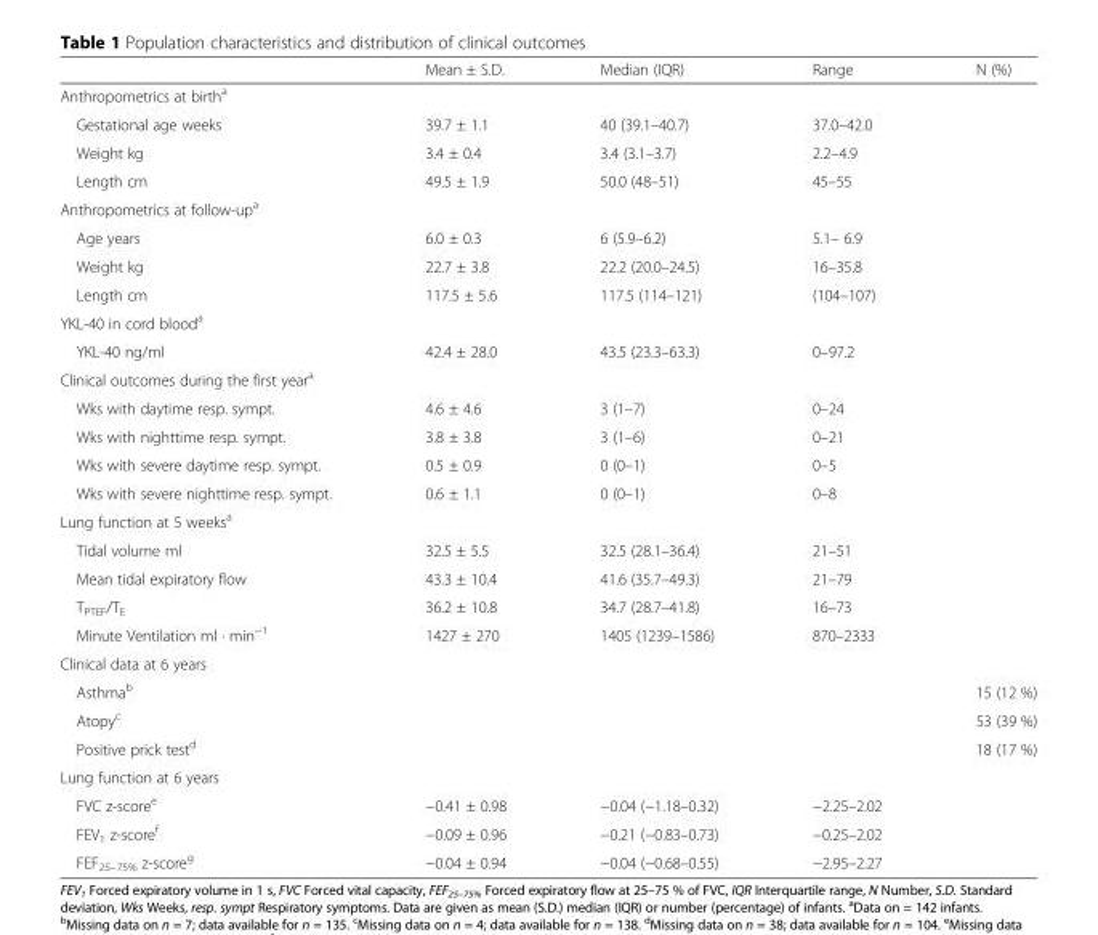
<table><thead><tr><td></td><td>Mean ± S.D.</td><td>Median (IQR)</td><td>Range</td><td>N (%)</td></tr></thead><tbody><tr><td colspan="5">Anthropometrics at birth<sup>a</sup></td></tr><tr><td>Gestational age weeks</td><td>39.7 ± 1.1</td><td>40 (39.1–40.7)</td><td>37.0–42.0</td><td></td></tr><tr><td>Weight kg</td><td>3.4 ± 0.4</td><td>3.4 (3.1–3.7)</td><td>2.2–4.9</td><td></td></tr><tr><td>Length cm</td><td>49.5 ± 1.9</td><td>50.0 (48–51)</td><td>45–55</td><td></td></tr><tr><td colspan="5">Anthropometrics at follow-up<sup>a</sup></td></tr><tr><td>Age years</td><td>6.0 ± 0.3</td><td>6 (5.9–6.2)</td><td>5.1– 6.9</td><td></td></tr><tr><td>Weight kg</td><td>22.7 ± 3.8</td><td>22.2 (20.0–24.5)</td><td>16–35.8</td><td></td></tr><tr><td>Length cm</td><td>117.5 ± 5.6</td><td>117.5 (114–121)</td><td>(104–107)</td><td></td></tr><tr><td colspan="5">YKL-40 in cord blood<sup>a</sup></td></tr><tr><td>YKL-40 ng/ml</td><td>42.4 ± 28.0</td><td>43.5 (23.3–63.3)</td><td>0–97.2</td><td></td></tr><tr><td colspan="5">Clinical outcomes during the first year<sup>a</sup></td></tr><tr><td>Wks with daytime resp. sympt.</td><td>4.6 ± 4.6</td><td>3 (1–7)</td><td>0–24</td><td></td></tr><tr><td>Wks with nighttime resp. sympt.</td><td>3.8 ± 3.8</td><td>3 (1–6)</td><td>0–21</td><td></td></tr><tr><td>Wks with severe daytime resp. sympt.</td><td>0.5 ± 0.9</td><td>0 (0–1)</td><td>0–5</td><td></td></tr><tr><td>Wks with severe nighttime resp. sympt.</td><td>0.6 ± 1.1</td><td>0 (0–1)</td><td>0–8</td><td></td></tr><tr><td colspan="5">Lung function at 5 weeks<sup>a</sup></td></tr><tr><td>Tidal volume ml</td><td>32.5 ± 5.5</td><td>32.5 (28.1–36.4)</td><td>21–51</td><td></td></tr><tr><td>Mean tidal expiratory flow</td><td>43.3 ± 10.4</td><td>41.6 (35.7–49.3)</td><td>21–79</td><td></td></tr><tr><td>T<sub>PTEF</sub>/T<sub>E</sub></td><td>36.2 ± 10.8</td><td>34.7 (28.7–41.8)</td><td>16–73</td><td></td></tr><tr><td>Minute Ventilation ml · min<sup>−1</sup></td><td>1427 ± 270</td><td>1405 (1239–1586)</td><td>870–2333</td><td></td></tr><tr><td colspan="5">Clinical data at 6 years</td></tr><tr><td>Asthma<sup>b</sup></td><td></td><td></td><td></td><td>15 (12 %)</td></tr><tr><td>Atopy<sup>c</sup></td><td></td><td></td><td></td><td>53 (39 %)</td></tr><tr><td>Positive prick test<sup>d</sup></td><td></td><td></td><td></td><td>18 (17 %)</td></tr><tr><td colspan="5">Lung function at 6 years</td></tr><tr><td>FVC z-score<sup>e</sup></td><td>−0.41 ± 0.98</td><td>−0.04 (−1.18–0.32)</td><td>−2.25–2.02</td><td></td></tr><tr><td>FEV<sub>1</sub> z-score<sup>f</sup></td><td>−0.09 ± 0.96</td><td>−0.21 (−0.83–0.73)</td><td>−0.25–2.02</td><td></td></tr><tr><td>FEF<sub>25–75%</sub> z-score<sup>g</sup></td><td>−0.04 ± 0.94</td><td>−0.04 (−0.68–0.55)</td><td>−2.95–2.27</td><td></td></tr></tbody></table>